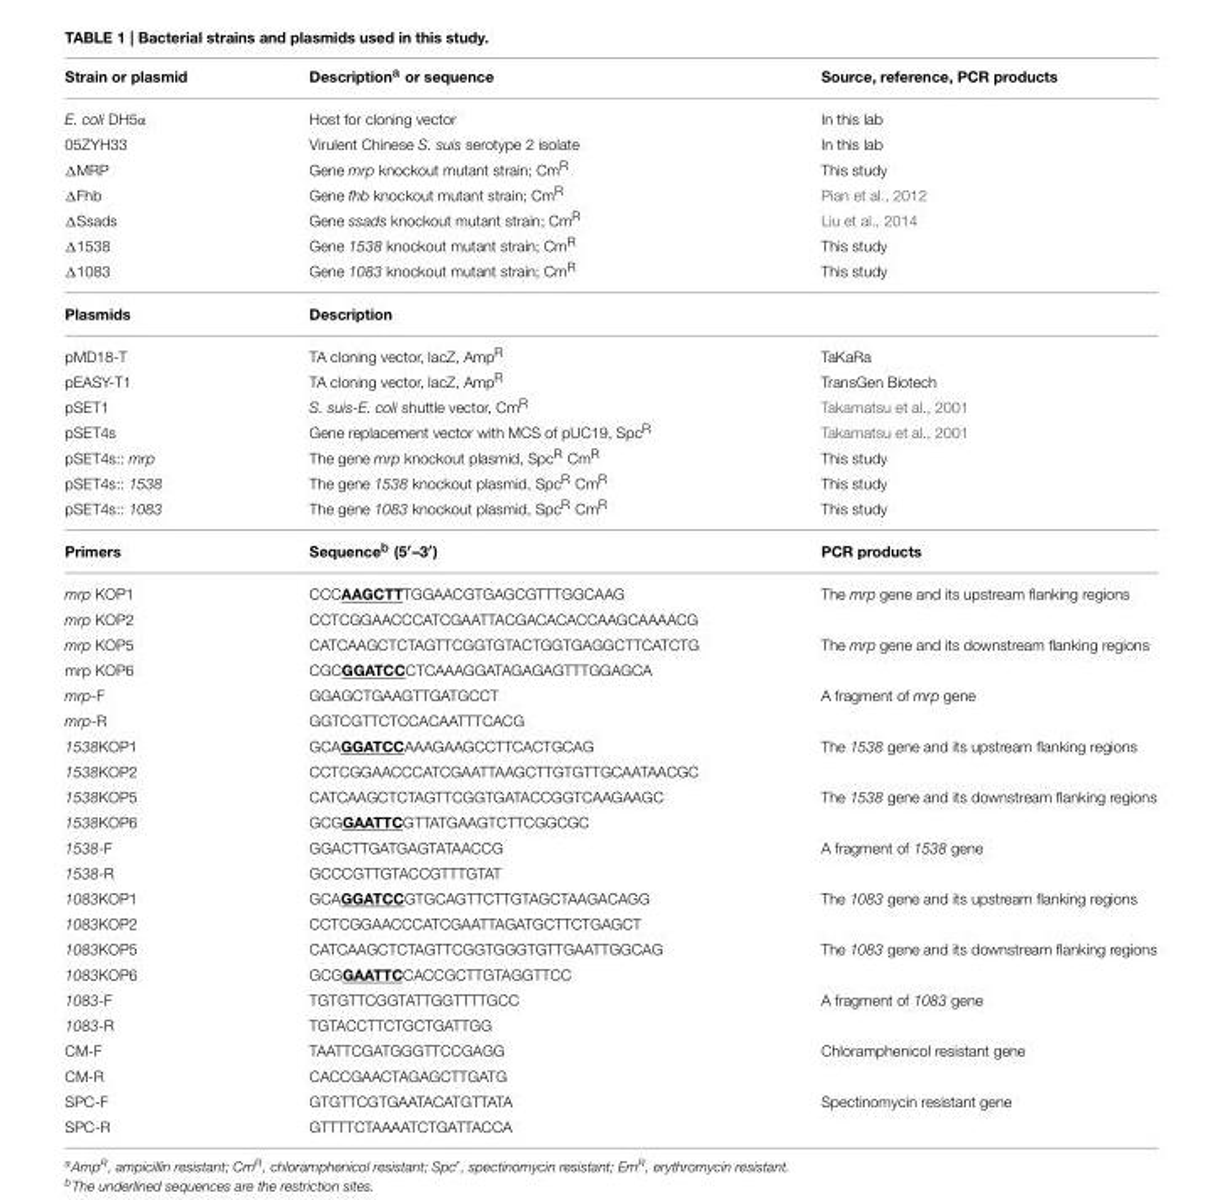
<table><thead><tr><td>Strain or plasmid</td><td>Description<sup>a</sup> or sequence</td><td>Source, reference, PCR products</td></tr></thead><tbody><tr><td>E. coli DH5α</td><td>Host for cloning vector</td><td>In this lab</td></tr><tr><td>05ZYH33</td><td>Virulent Chinese S. suis serotype 2 isolate</td><td>In this lab</td></tr><tr><td>ΔMRP</td><td>Gene mrp knockout mutant strain; Cm<sup>R</sup></td><td>This study</td></tr><tr><td>ΔFhb</td><td>Gene fhb knockout mutant strain; Cm<sup>R</sup></td><td>Pian et al., 2012</td></tr><tr><td>ΔSsads</td><td>Gene ssads knockout mutant strain; Cm<sup>R</sup></td><td>Liu et al., 2014</td></tr><tr><td>Δ1538</td><td>Gene 1538 knockout mutant strain; Cm<sup>R</sup></td><td>This study</td></tr><tr><td>Δ1083</td><td>Gene 1083 knockout mutant strain; Cm<sup>R</sup></td><td>This study</td></tr><tr><td>Plasmids</td><td>Description</td><td></td></tr><tr><td>pMD18-T</td><td>TA cloning vector, lacZ, Amp<sup>R</sup></td><td>TaKaRa</td></tr><tr><td>pEASY-T1</td><td>TA cloning vector, lacZ, Amp<sup>R</sup></td><td>TransGen Biotech</td></tr><tr><td>pSET1</td><td>S. suis-E. coli shuttle vector, Cm<sup>R</sup></td><td>Takamatsu et al., 2001</td></tr><tr><td>pSET4s</td><td>Gene replacement vector with MCS of pUC19, Spc<sup>R</sup></td><td>Takamatsu et al., 2001</td></tr><tr><td>pSET4s:: mrp</td><td>The gene mrp knockout plasmid, Spc<sup>R</sup> Cm<sup>R</sup></td><td>This study</td></tr><tr><td>pSET4s:: 1538</td><td>The gene 1538 knockout plasmid, Spc<sup>R</sup> Cm<sup>R</sup></td><td>This study</td></tr><tr><td>pSET4s:: 1083</td><td>The gene 1083 knockout plasmid, Spc<sup>R</sup> Cm<sup>R</sup></td><td>This study</td></tr><tr><td>Primers</td><td>Sequence<sup>b</sup> (5′–3′)</td><td>PCR products</td></tr><tr><td>mrp KOP1</td><td>CCCAAGCTTTGGAACGTGAGCGTTTGGCAAG</td><td>The mrp gene and its upstream flanking regions</td></tr><tr><td>mrp KOP2</td><td>CCTCGGAACCCATCGAATTACGACACACCAAGCAAAACG</td><td></td></tr><tr><td>mrp KOP5</td><td>CATCAAGCTCTAGTTCGGTGTACTGGTGAGGCTTCATCTG</td><td>The mrp gene and its downstream flanking regions</td></tr><tr><td>mrp KOP6</td><td>CGCGGATCCCTCAAAGGATAGAGAGTTTGGAGCA</td><td></td></tr><tr><td>mrp-F</td><td>GGAGCTGAAGTTGATGCCT</td><td>A fragment of mrp gene</td></tr><tr><td>mrp-R</td><td>GGTCGTTCTCCACAATTTCACG</td><td></td></tr><tr><td>1538KOP1</td><td>GCAGGATCCAAAGAAGCCTTCACTGCAG</td><td>The 1538 gene and its upstream flanking regions</td></tr><tr><td>1538KOP2</td><td>CCTCGGAACCCATCGAATTAAGCTTGTGTTGCAATAACGC</td><td></td></tr><tr><td>1538KOP5</td><td>CATCAAGCTCTAGTTCGGTGATACCGGTCAAGAAGC</td><td>The 1538 gene and its downstream flanking regions</td></tr><tr><td>1538KOP6</td><td>GCGGAATTCGTTATGAAGTCTTCGGCGC</td><td></td></tr><tr><td>1538-F</td><td>GGACTTGATGAGTATAACCG</td><td>A fragment of 1538 gene</td></tr><tr><td>1538-R</td><td>GCCCGTTGTACCGTTTGTAT</td><td></td></tr><tr><td>1083KOP1</td><td>GCAGGATCCGTGCAGTTCTTGTAGCTAAGACAGG</td><td>The 1083 gene and its upstream flanking regions</td></tr><tr><td>1083KOP2</td><td>CCTCGGAACCCATCGAATTAGATGCTTCTGAGCT</td><td></td></tr><tr><td>1083KOP5</td><td>CATCAAGCTCTAGTTCGGTGGGTGTTGAATTGGCAG</td><td>The 1083 gene and its downstream flanking regions</td></tr><tr><td>1083KOP6</td><td>GCGGAATTCCACCGCTTGTAGGTTCC</td><td></td></tr><tr><td>1083-F</td><td>TGTGTTCGGTATTGGTTTTGCC</td><td>A fragment of 1083 gene</td></tr><tr><td>1083-R</td><td>TGTACCTTCTGCTGATTGG</td><td></td></tr><tr><td>CM-F</td><td>TAATTCGATGGGTTCCGAGG</td><td>Chloramphenicol resistant gene</td></tr><tr><td>CM-R</td><td>CACCGAACTAGAGCTTGATG</td><td></td></tr><tr><td>SPC-F</td><td>GTGTTCGTGAATACATGTTATA</td><td>Spectinomycin resistant gene</td></tr><tr><td>SPC-R</td><td>GTTTTCTAAAATCTGATTACCA</td><td></td></tr></tbody></table>